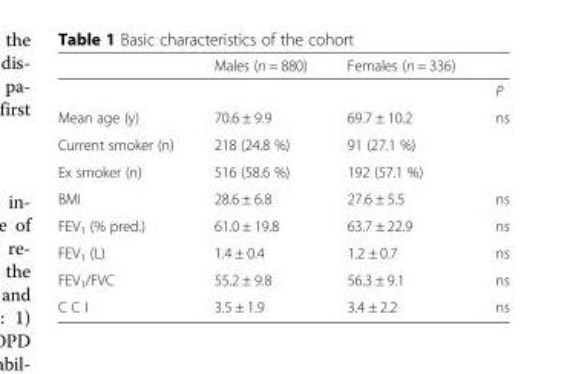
<table><thead><tr><td></td><td>Males (n = 880)</td><td>Females (n = 336)</td><td></td></tr></thead><tbody><tr><td></td><td></td><td></td><td>P</td></tr><tr><td>Mean age (y)</td><td>70.6 ± 9.9</td><td>69.7 ± 10.2</td><td>ns</td></tr><tr><td>Current smoker (n)</td><td>218 (24.8 %)</td><td>91 (27.1 %)</td><td></td></tr><tr><td>Ex smoker (n)</td><td>516 (58.6 %)</td><td>192 (57.1 %)</td><td></td></tr><tr><td>BMI</td><td>28.6 ± 6.8</td><td>27.6 ± 5.5</td><td>ns</td></tr><tr><td>FEV<sub>1</sub> (% pred.)</td><td>61.0 ± 19.8</td><td>63.7 ± 22.9</td><td>ns</td></tr><tr><td>FEV<sub>1</sub> (L)</td><td>1.4 ± 0.4</td><td>1.2 ± 0.7</td><td>ns</td></tr><tr><td>FEV<sub>1</sub>/FVC</td><td>55.2 ± 9.8</td><td>56.3 ± 9.1</td><td>ns</td></tr><tr><td>C C I</td><td>3.5 ± 1.9</td><td>3.4 ± 2.2</td><td>ns</td></tr></tbody></table>